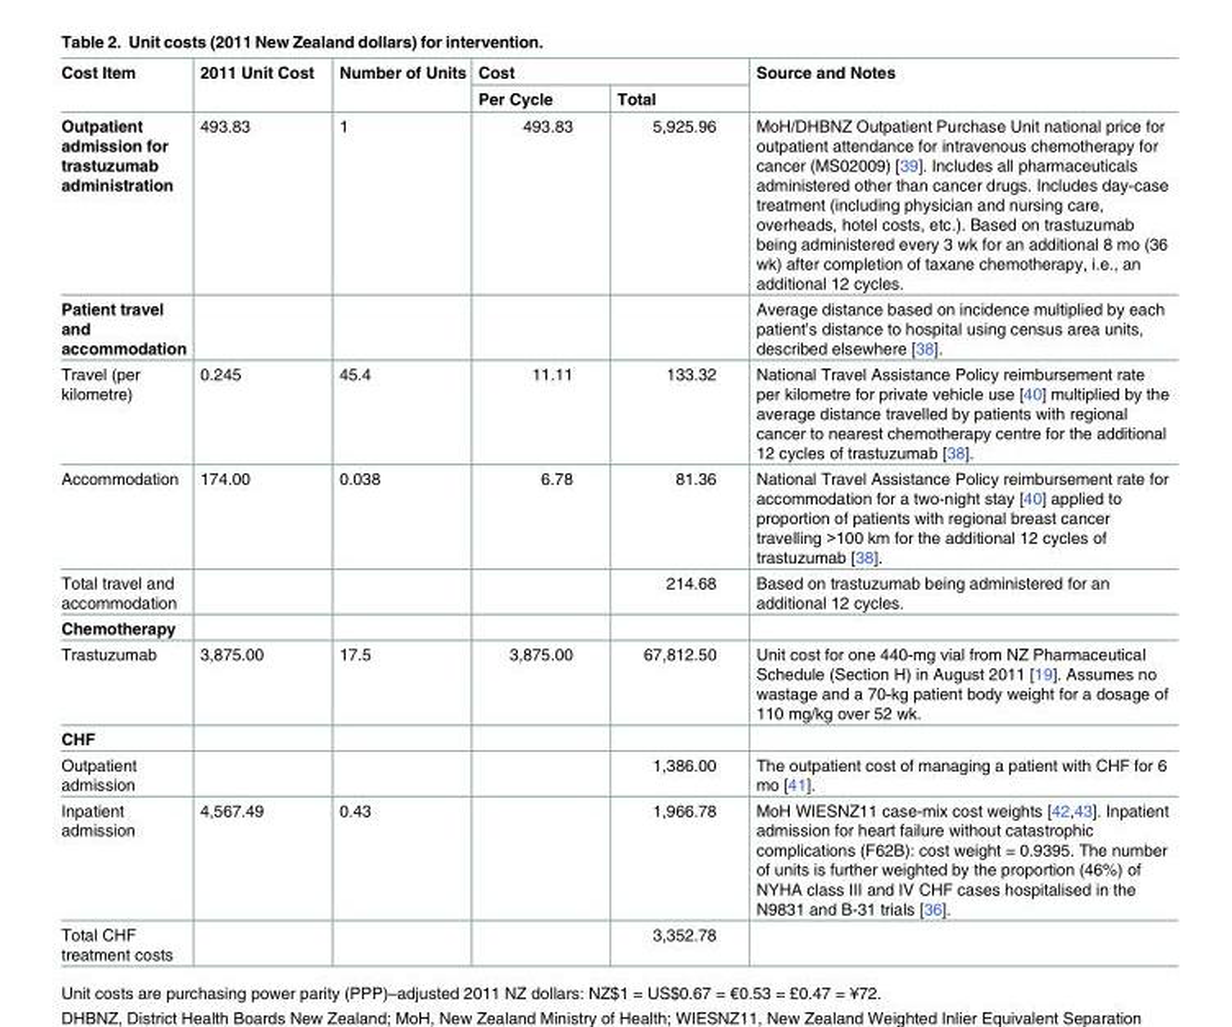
<table><thead><tr><td rowspan="2">Cost Item</td><td rowspan="2">2011 Unit Cost</td><td rowspan="2">Number of Units</td><td colspan="2">Cost</td><td rowspan="2">Source and Notes</td></tr><tr><td>Per Cycle</td><td>Total</td></tr></thead><tbody><tr><td>Outpatient admission for trastuzumab administration</td><td>493.83</td><td>1</td><td>493.83</td><td>5,925.96</td><td>MoH/DHBNZ Outpatient Purchase Unit national price for outpatient attendance for intravenous chemotherapy for cancer (MS02009) [39]. Includes all pharmaceuticals administered other than cancer drugs. Includes day-case treatment (including physician and nursing care, overheads, hotel costs, etc.). Based on trastuzumab being administered every 3 wk for an additional 8 mo (36 wk) after completion of taxane chemotherapy, i.e., an additional 12 cycles.</td></tr><tr><td>Patient travel and accommodation</td><td></td><td></td><td></td><td></td><td>Average distance based on incidence multiplied by each patient’s distance to hospital using census area units, described elsewhere [38].</td></tr><tr><td>Travel (per kilometre)</td><td>0.245</td><td>45.4</td><td>11.11</td><td>133.32</td><td>National Travel Assistance Policy reimbursement rate per kilometre for private vehicle use [40] multiplied by the average distance travelled by patients with regional cancer to nearest chemotherapy centre for the additional 12 cycles of trastuzumab [38].</td></tr><tr><td>Accommodation</td><td>174.00</td><td>0.038</td><td>6.78</td><td>81.36</td><td>National Travel Assistance Policy reimbursement rate for accommodation for a two-night stay [40] applied to proportion of patients with regional breast cancer travelling &gt;100 km for the additional 12 cycles of trastuzumab [38].</td></tr><tr><td>Total travel and accommodation</td><td></td><td></td><td></td><td>214.68</td><td>Based on trastuzumab being administered for an additional 12 cycles.</td></tr><tr><td colspan="6">Chemotherapy</td></tr><tr><td>Trastuzumab</td><td>3,875.00</td><td>17.5</td><td>3,875.00</td><td>67,812.50</td><td>Unit cost for one 440-mg vial from NZ Pharmaceutical Schedule (Section H) in August 2011 [19]. Assumes no wastage and a 70-kg patient body weight for a dosage of 110 mg/kg over 52 wk.</td></tr><tr><td colspan="6">CHF</td></tr><tr><td>Outpatient admission</td><td></td><td></td><td></td><td>1,386.00</td><td>The outpatient cost of managing a patient with CHF for 6 mo [41].</td></tr><tr><td>Inpatient admission</td><td>4,567.49</td><td>0.43</td><td></td><td>1,966.78</td><td>MoH WIESNZ11 case-mix cost weights [42,43]. Inpatient admission for heart failure without catastrophic complications (F62B): cost weight = 0.9395. The number of units is further weighted by the proportion (46%) of NYHA class III and IV CHF cases hospitalised in the N9831 and B-31 trials [36].</td></tr><tr><td>Total CHF treatment costs</td><td></td><td></td><td></td><td>3,352.78</td><td></td></tr></tbody></table>